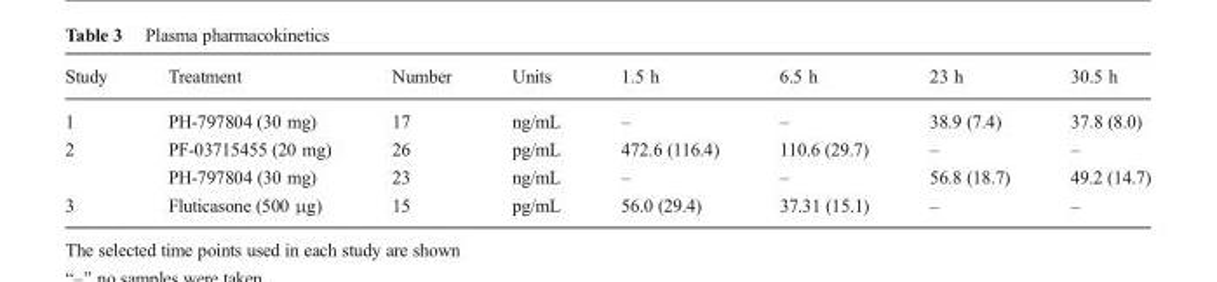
<table><thead><tr><td>Study</td><td>Treatment</td><td>Number</td><td>Units</td><td>1.5 h</td><td>6.5 h</td><td>23 h</td><td>30.5 h</td></tr></thead><tbody><tr><td>1</td><td>PH-797804 (30 mg)</td><td>17</td><td>ng/mL</td><td>–</td><td>–</td><td>38.9 (7.4)</td><td>37.8 (8.0)</td></tr><tr><td rowspan="2">2</td><td>PF-03715455 (20 mg)</td><td>26</td><td>pg/mL</td><td>472.6 (116.4)</td><td>110.6 (29.7)</td><td>–</td><td>–</td></tr><tr><td>PH-797804 (30 mg)</td><td>23</td><td>ng/mL</td><td>–</td><td>–</td><td>56.8 (18.7)</td><td>49.2 (14.7)</td></tr><tr><td>3</td><td>Fluticasone (500 μg)</td><td>15</td><td>pg/mL</td><td>56.0 (29.4)</td><td>37.31 (15.1)</td><td>–</td><td>–</td></tr></tbody></table>